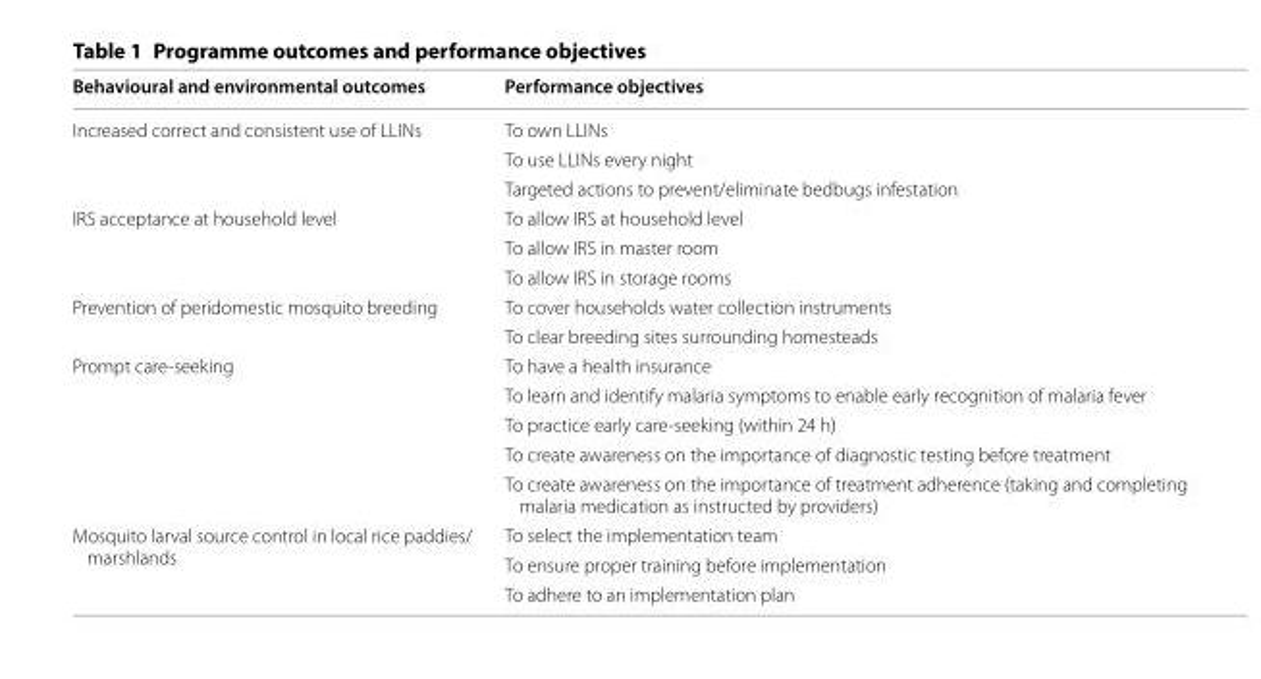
<table><thead><tr><td>Behavioural and environmental outcomes</td><td>Performance objectives</td></tr></thead><tbody><tr><td rowspan="3">Increased correct and consistent use of LLINs</td><td>To own LLINs</td></tr><tr><td>To use LLINs every night</td></tr><tr><td>Targeted actions to prevent/eliminate bedbugs infestation</td></tr><tr><td rowspan="3">IRS acceptance at household level</td><td>To allow IRS at household level</td></tr><tr><td>To allow IRS in master room</td></tr><tr><td>To allow IRS in storage rooms</td></tr><tr><td rowspan="2">Prevention of peridomestic mosquito breeding</td><td>To cover households water collection instruments</td></tr><tr><td>To clear breeding sites surrounding homesteads</td></tr><tr><td rowspan="5">Prompt care-seeking</td><td>To have a health insurance</td></tr><tr><td>To learn and identify malaria symptoms to enable early recognition of malaria fever</td></tr><tr><td>To practice early care-seeking (within 24 h)</td></tr><tr><td>To create awareness on the importance of diagnostic testing before treatment</td></tr><tr><td>To create awareness on the importance of treatment adherence (taking and completing malaria medication as instructed by providers)</td></tr><tr><td rowspan="3">Mosquito larval source control in local rice paddies/ marshlands</td><td>To select the implementation team</td></tr><tr><td>To ensure proper training before implementation</td></tr><tr><td>To adhere to an implementation plan</td></tr></tbody></table>